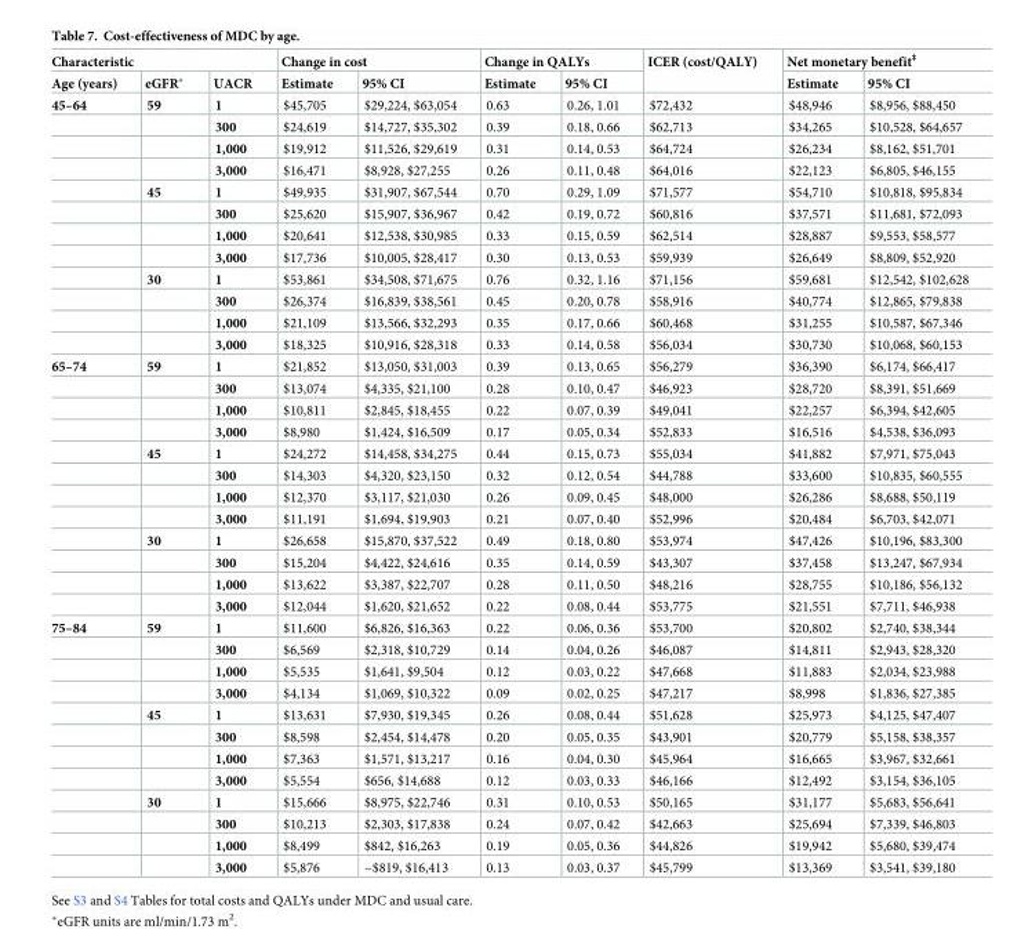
<table><thead><tr><td colspan="3">Characteristic</td><td colspan="2">Change in cost</td><td colspan="2">Change in QALYs</td><td rowspan="2">ICER (cost/QALY)</td><td colspan="2">Net monetary benefit<sup>‡</sup></td></tr><tr><td>Age (years)</td><td>eGFR*</td><td>UACR</td><td>Estimate</td><td>95% CI</td><td>Estimate</td><td>95% CI</td><td>Estimate</td><td>95% CI</td></tr></thead><tbody><tr><td rowspan="12">45–64</td><td>59</td><td>1</td><td>$45,705</td><td>$29,224, $63,054</td><td>0.63</td><td>0.26, 1.01</td><td>$72,432</td><td>$48,946</td><td>$8,956, $88,450</td></tr><tr><td></td><td>300</td><td>$24,619</td><td>$14,727, $35,302</td><td>0.39</td><td>0.18, 0.66</td><td>$62,713</td><td>$34,265</td><td>$10,528, $64,657</td></tr><tr><td></td><td>1,000</td><td>$19,912</td><td>$11,526, $29,619</td><td>0.31</td><td>0.14, 0.53</td><td>$64,724</td><td>$26,234</td><td>$8,162, $51,701</td></tr><tr><td></td><td>3,000</td><td>$16,471</td><td>$8,928, $27,255</td><td>0.26</td><td>0.11, 0.48</td><td>$64,016</td><td>$22,123</td><td>$6,805, $46,155</td></tr><tr><td>45</td><td>1</td><td>$49,935</td><td>$31,907, $67,544</td><td>0.70</td><td>0.29, 1.09</td><td>$71,577</td><td>$54,710</td><td>$10,818, $95,834</td></tr><tr><td></td><td>300</td><td>$25,620</td><td>$15,907, $36,967</td><td>0.42</td><td>0.19, 0.72</td><td>$60,816</td><td>$37,571</td><td>$11,681, $72,093</td></tr><tr><td></td><td>1,000</td><td>$20,641</td><td>$12,538, $30,985</td><td>0.33</td><td>0.15, 0.59</td><td>$62,514</td><td>$28,887</td><td>$9,553, $58,577</td></tr><tr><td></td><td>3,000</td><td>$17,736</td><td>$10,005, $28,417</td><td>0.30</td><td>0.13, 0.53</td><td>$59,939</td><td>$26,649</td><td>$8,809, $52,920</td></tr><tr><td>30</td><td>1</td><td>$53,861</td><td>$34,508, $71,675</td><td>0.76</td><td>0.32, 1.16</td><td>$71,156</td><td>$59,681</td><td>$12,542, $102,628</td></tr><tr><td></td><td>300</td><td>$26,374</td><td>$16,839, $38,561</td><td>0.45</td><td>0.20, 0.78</td><td>$58,916</td><td>$40,774</td><td>$12,865, $79,838</td></tr><tr><td></td><td>1,000</td><td>$21,109</td><td>$13,566, $32,293</td><td>0.35</td><td>0.17, 0.66</td><td>$60,468</td><td>$31,255</td><td>$10,587, $67,346</td></tr><tr><td></td><td>3,000</td><td>$18,325</td><td>$10,916, $28,318</td><td>0.33</td><td>0.14, 0.58</td><td>$56,034</td><td>$30,730</td><td>$10,068, $60,153</td></tr><tr><td rowspan="12">65–74</td><td>59</td><td>1</td><td>$21,852</td><td>$13,050, $31,003</td><td>0.39</td><td>0.13, 0.65</td><td>$56,279</td><td>$36,390</td><td>$6,174, $66,417</td></tr><tr><td></td><td>300</td><td>$13,074</td><td>$4,335, $21,100</td><td>0.28</td><td>0.10, 0.47</td><td>$46,923</td><td>$28,720</td><td>$8,391, $51,669</td></tr><tr><td></td><td>1,000</td><td>$10,811</td><td>$2,845, $18,455</td><td>0.22</td><td>0.07, 0.39</td><td>$49,041</td><td>$22,257</td><td>$6,394, $42,605</td></tr><tr><td></td><td>3,000</td><td>$8,980</td><td>$1,424, $16,509</td><td>0.17</td><td>0.05, 0.34</td><td>$52,833</td><td>$16,516</td><td>$4,538, $36,093</td></tr><tr><td>45</td><td>1</td><td>$24,272</td><td>$14,458, $34,275</td><td>0.44</td><td>0.15, 0.73</td><td>$55,034</td><td>$41,882</td><td>$7,971, $75,043</td></tr><tr><td></td><td>300</td><td>$14,303</td><td>$4,320, $23,150</td><td>0.32</td><td>0.12, 0.54</td><td>$44,788</td><td>$33,600</td><td>$10,835, $60,555</td></tr><tr><td></td><td>1,000</td><td>$12,370</td><td>$3,117, $21,030</td><td>0.26</td><td>0.09, 0.45</td><td>$48,000</td><td>$26,286</td><td>$8,688, $50,119</td></tr><tr><td></td><td>3,000</td><td>$11,191</td><td>$1,694, $19,903</td><td>0.21</td><td>0.07, 0.40</td><td>$52,996</td><td>$20,484</td><td>$6,703, $42,071</td></tr><tr><td>30</td><td>1</td><td>$26,658</td><td>$15,870, $37,522</td><td>0.49</td><td>0.18, 0.80</td><td>$53,974</td><td>$47,426</td><td>$10,196, $83,300</td></tr><tr><td></td><td>300</td><td>$15,204</td><td>$4,422, $24,616</td><td>0.35</td><td>0.14, 0.59</td><td>$43,307</td><td>$37,458</td><td>$13,247, $67,934</td></tr><tr><td></td><td>1,000</td><td>$13,622</td><td>$3,387, $22,707</td><td>0.28</td><td>0.11, 0.50</td><td>$48,216</td><td>$28,755</td><td>$10,186, $56,132</td></tr><tr><td></td><td>3,000</td><td>$12,044</td><td>$1,620, $21,652</td><td>0.22</td><td>0.08, 0.44</td><td>$53,775</td><td>$21,551</td><td>$7,711, $46,938</td></tr><tr><td rowspan="12">75–84</td><td>59</td><td>1</td><td>$11,600</td><td>$6,826, $16,363</td><td>0.22</td><td>0.06, 0.36</td><td>$53,700</td><td>$20,802</td><td>$2,740, $38,344</td></tr><tr><td></td><td>300</td><td>$6,569</td><td>$2,318, $10,729</td><td>0.14</td><td>0.04, 0.26</td><td>$46,087</td><td>$14,811</td><td>$2,943, $28,320</td></tr><tr><td></td><td>1,000</td><td>$5,535</td><td>$1,641, $9,504</td><td>0.12</td><td>0.03, 0.22</td><td>$47,668</td><td>$11,883</td><td>$2,034, $23,988</td></tr><tr><td></td><td>3,000</td><td>$4,134</td><td>$1,069, $10,322</td><td>0.09</td><td>0.02, 0.25</td><td>$47,217</td><td>$8,998</td><td>$1,836, $27,385</td></tr><tr><td>45</td><td>1</td><td>$13,631</td><td>$7,930, $19,345</td><td>0.26</td><td>0.08, 0.44</td><td>$51,628</td><td>$25,973</td><td>$4,125, $47,407</td></tr><tr><td></td><td>300</td><td>$8,598</td><td>$2,454, $14,478</td><td>0.20</td><td>0.05, 0.35</td><td>$43,901</td><td>$20,779</td><td>$5,158, $38,357</td></tr><tr><td></td><td>1,000</td><td>$7,363</td><td>$1,571, $13,217</td><td>0.16</td><td>0.04, 0.30</td><td>$45,964</td><td>$16,665</td><td>$3,967, $32,661</td></tr><tr><td></td><td>3,000</td><td>$5,554</td><td>$656, $14,688</td><td>0.12</td><td>0.03, 0.33</td><td>$46,166</td><td>$12,492</td><td>$3,154, $36,105</td></tr><tr><td>30</td><td>1</td><td>$15,666</td><td>$8,975, $22,746</td><td>0.31</td><td>0.10, 0.53</td><td>$50,165</td><td>$31,177</td><td>$5,683, $56,641</td></tr><tr><td></td><td>300</td><td>$10,213</td><td>$2,303, $17,838</td><td>0.24</td><td>0.07, 0.42</td><td>$42,663</td><td>$25,694</td><td>$7,339, $46,803</td></tr><tr><td></td><td>1,000</td><td>$8,499</td><td>$842, $16,263</td><td>0.19</td><td>0.05, 0.36</td><td>$44,826</td><td>$19,942</td><td>$5,680, $39,474</td></tr><tr><td></td><td>3,000</td><td>$5,876</td><td>−$819, $16,413</td><td>0.13</td><td>0.03, 0.37</td><td>$45,799</td><td>$13,369</td><td>$3,541, $39,180</td></tr></tbody></table>